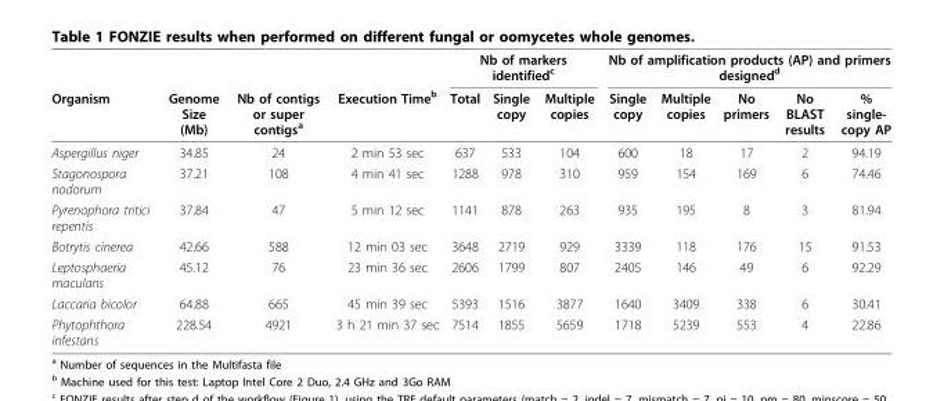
<table><thead><tr><td rowspan="2">Organism</td><td rowspan="2">Genome Size (Mb)</td><td rowspan="2">Nb of contigs or super contigs<sup>a</sup></td><td rowspan="2">Execution Time<sup>b</sup></td><td colspan="3">Nb of markers identified<sup>c</sup></td><td colspan="5">Nb of amplification products (AP) and primers designed<sup>d</sup></td></tr><tr><td>Total</td><td>Single copy</td><td>Multiple copies</td><td>Single copy</td><td>Multiple copies</td><td>No primers</td><td>No BLAST results</td><td>% single- copy AP</td></tr></thead><tbody><tr><td>Aspergillus niger</td><td>34.85</td><td>24</td><td>2 min 53 sec</td><td>637</td><td>533</td><td>104</td><td>600</td><td>18</td><td>17</td><td>2</td><td>94.19</td></tr><tr><td>Stagonospora nodorum</td><td>37.21</td><td>108</td><td>4 min 41 sec</td><td>1288</td><td>978</td><td>310</td><td>959</td><td>154</td><td>169</td><td>6</td><td>74.46</td></tr><tr><td>Pyrenophora tritici repentis</td><td>37.84</td><td>47</td><td>5 min 12 sec</td><td>1141</td><td>878</td><td>263</td><td>935</td><td>195</td><td>8</td><td>3</td><td>81.94</td></tr><tr><td>Botrytis cinerea</td><td>42.66</td><td>588</td><td>12 min 03 sec</td><td>3648</td><td>2719</td><td>929</td><td>3339</td><td>118</td><td>176</td><td>15</td><td>91.53</td></tr><tr><td>Leptosphaeria maculans</td><td>45.12</td><td>76</td><td>23 min 36 sec</td><td>2606</td><td>1799</td><td>807</td><td>2405</td><td>146</td><td>49</td><td>6</td><td>92.29</td></tr><tr><td>Laccaria bicolor</td><td>64.88</td><td>665</td><td>45 min 39 sec</td><td>5393</td><td>1516</td><td>3877</td><td>1640</td><td>3409</td><td>338</td><td>6</td><td>30.41</td></tr><tr><td>Phytophthora infestans</td><td>228.54</td><td>4921</td><td>3 h 21 min 37 sec</td><td>7514</td><td>1855</td><td>5659</td><td>1718</td><td>5239</td><td>553</td><td>4</td><td>22.86</td></tr></tbody></table>